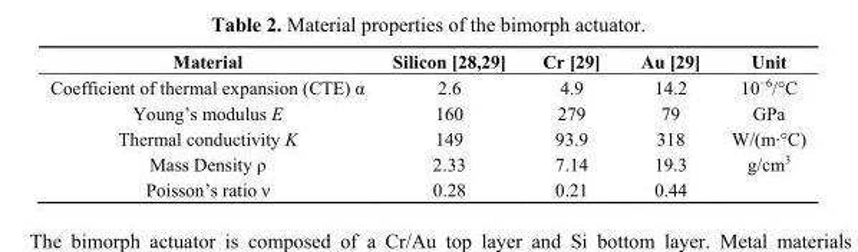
<table><thead><tr><td>Material</td><td>Silicon [28,29]</td><td>Cr [29]</td><td>Au [29]</td><td>Unit</td></tr></thead><tbody><tr><td>Coefficient of thermal expansion (CTE) α</td><td>2.6</td><td>4.9</td><td>14.2</td><td>10<sup>−6</sup>/°C</td></tr><tr><td>Young’s modulus E</td><td>160</td><td>279</td><td>79</td><td>GPa</td></tr><tr><td>Thermal conductivity K</td><td>149</td><td>93.9</td><td>318</td><td>W/(m·°C)</td></tr><tr><td>Mass Density ρ</td><td>2.33</td><td>7.14</td><td>19.3</td><td>g/cm<sup>3</sup></td></tr><tr><td>Poisson’s ratio ν</td><td>0.28</td><td>0.21</td><td>0.44</td><td></td></tr></tbody></table>